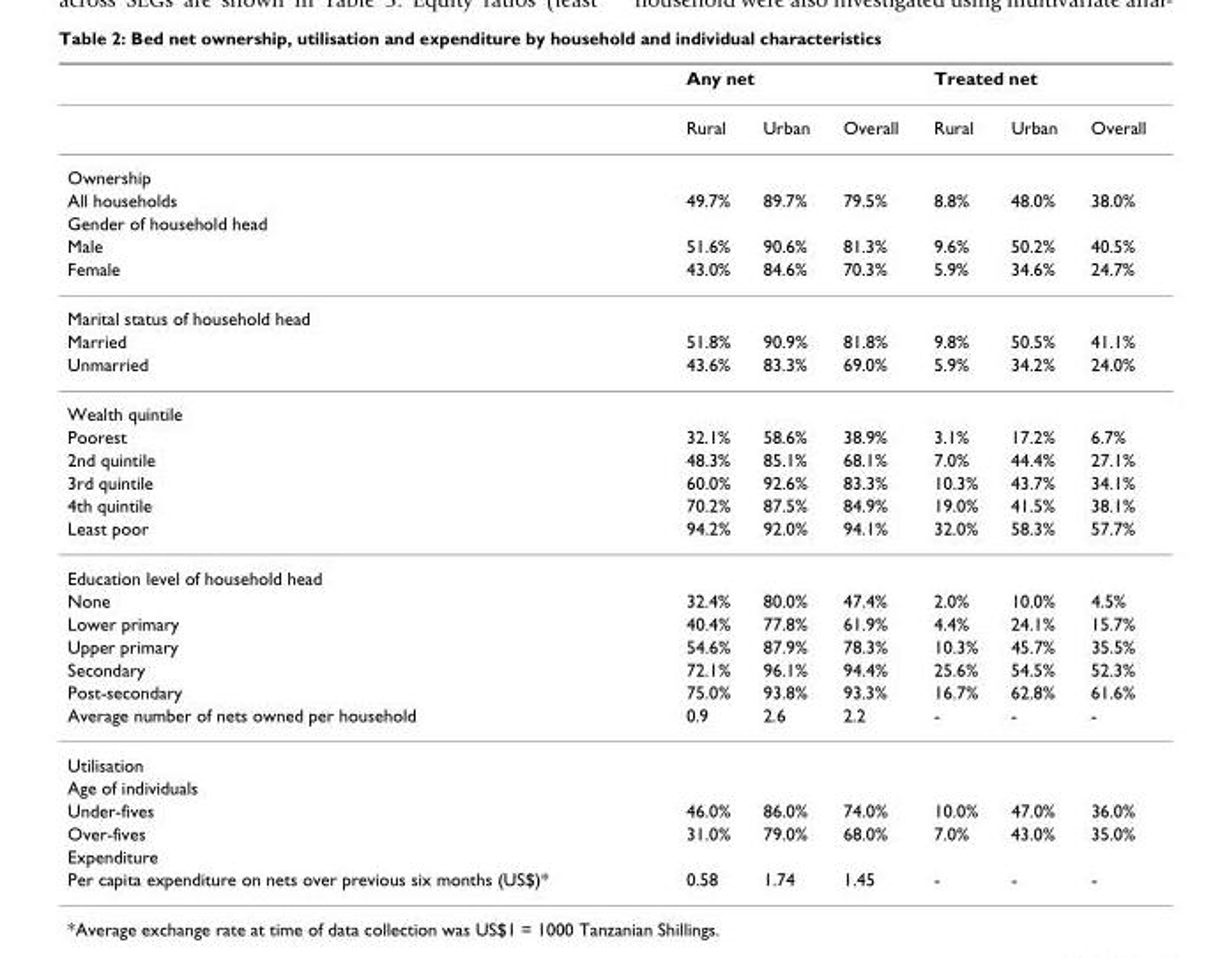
<table><thead><tr><td rowspan="2"></td><td colspan="3">Any net</td><td colspan="3">Treated net</td></tr><tr><td>Rural</td><td>Urban</td><td>Overall</td><td>Rural</td><td>Urban</td><td>Overall</td></tr></thead><tbody><tr><td colspan="7">Ownership</td></tr><tr><td>All households</td><td>49.7%</td><td>89.7%</td><td>79.5%</td><td>8.8%</td><td>48.0%</td><td>38.0%</td></tr><tr><td colspan="7">Gender of household head</td></tr><tr><td>Male</td><td>51.6%</td><td>90.6%</td><td>81.3%</td><td>9.6%</td><td>50.2%</td><td>40.5%</td></tr><tr><td>Female</td><td>43.0%</td><td>84.6%</td><td>70.3%</td><td>5.9%</td><td>34.6%</td><td>24.7%</td></tr><tr><td colspan="7">Marital status of household head</td></tr><tr><td>Married</td><td>51.8%</td><td>90.9%</td><td>81.8%</td><td>9.8%</td><td>50.5%</td><td>41.1%</td></tr><tr><td>Unmarried</td><td>43.6%</td><td>83.3%</td><td>69.0%</td><td>5.9%</td><td>34.2%</td><td>24.0%</td></tr><tr><td colspan="7">Wealth quintile</td></tr><tr><td>Poorest</td><td>32.1%</td><td>58.6%</td><td>38.9%</td><td>3.1%</td><td>17.2%</td><td>6.7%</td></tr><tr><td>2nd quintile</td><td>48.3%</td><td>85.1%</td><td>68.1%</td><td>7.0%</td><td>44.4%</td><td>27.1%</td></tr><tr><td>3rd quintile</td><td>60.0%</td><td>92.6%</td><td>83.3%</td><td>10.3%</td><td>43.7%</td><td>34.1%</td></tr><tr><td>4th quintile</td><td>70.2%</td><td>87.5%</td><td>84.9%</td><td>19.0%</td><td>41.5%</td><td>38.1%</td></tr><tr><td>Least poor</td><td>94.2%</td><td>92.0%</td><td>94.1%</td><td>32.0%</td><td>58.3%</td><td>57.7%</td></tr><tr><td colspan="7">Education level of household head</td></tr><tr><td>None</td><td>32.4%</td><td>80.0%</td><td>47.4%</td><td>2.0%</td><td>10.0%</td><td>4.5%</td></tr><tr><td>Lower primary</td><td>40.4%</td><td>77.8%</td><td>61.9%</td><td>4.4%</td><td>24.1%</td><td>15.7%</td></tr><tr><td>Upper primary</td><td>54.6%</td><td>87.9%</td><td>78.3%</td><td>10.3%</td><td>45.7%</td><td>35.5%</td></tr><tr><td>Secondary</td><td>72.1%</td><td>96.1%</td><td>94.4%</td><td>25.6%</td><td>54.5%</td><td>52.3%</td></tr><tr><td>Post-secondary</td><td>75.0%</td><td>93.8%</td><td>93.3%</td><td>16.7%</td><td>62.8%</td><td>61.6%</td></tr><tr><td>Average number of nets owned per household</td><td>0.9</td><td>2.6</td><td>2.2</td><td>-</td><td>-</td><td>-</td></tr><tr><td colspan="7">Utilisation</td></tr><tr><td colspan="7">Age of individuals</td></tr><tr><td>Under-fives</td><td>46.0%</td><td>86.0%</td><td>74.0%</td><td>10.0%</td><td>47.0%</td><td>36.0%</td></tr><tr><td>Over-fives</td><td>31.0%</td><td>79.0%</td><td>68.0%</td><td>7.0%</td><td>43.0%</td><td>35.0%</td></tr><tr><td colspan="7">Expenditure</td></tr><tr><td>Per capita expenditure on nets over previous six months (US$)*</td><td>0.58</td><td>1.74</td><td>1.45</td><td>-</td><td>-</td><td>-</td></tr></tbody></table>